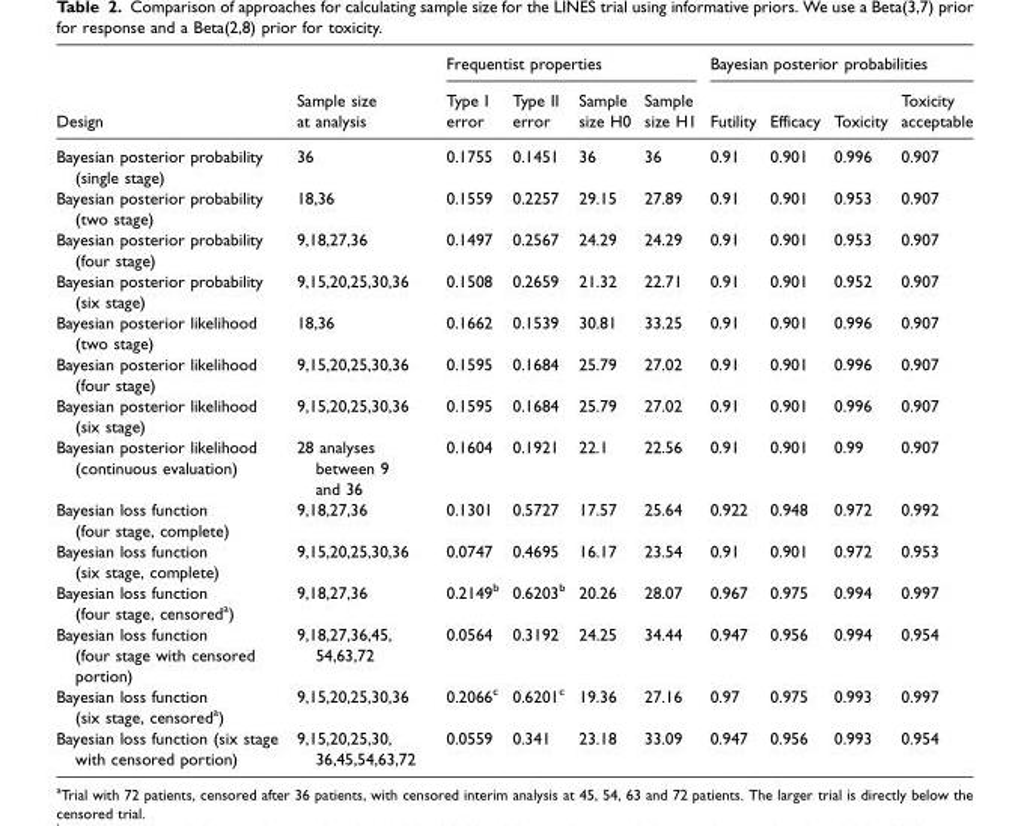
<table><thead><tr><td rowspan="2">Design</td><td rowspan="2">Sample size at analysis</td><td colspan="4">Frequentist properties</td><td colspan="4">Bayesian posterior probabilities</td></tr><tr><td>Type I error</td><td>Type II error</td><td>Sample size H0</td><td>Sample size H1</td><td>Futility</td><td>Efficacy</td><td>Toxicity</td><td>Toxicity acceptable</td></tr></thead><tbody><tr><td>Bayesian posterior probability (single stage)</td><td>36</td><td>0.1755</td><td>0.1451</td><td>36</td><td>36</td><td>0.91</td><td>0.901</td><td>0.996</td><td>0.907</td></tr><tr><td>Bayesian posterior probability (two stage)</td><td>18,36</td><td>0.1559</td><td>0.2257</td><td>29.15</td><td>27.89</td><td>0.91</td><td>0.901</td><td>0.953</td><td>0.907</td></tr><tr><td>Bayesian posterior probability (four stage)</td><td>9,18,27,36</td><td>0.1497</td><td>0.2567</td><td>24.29</td><td>24.29</td><td>0.91</td><td>0.901</td><td>0.953</td><td>0.907</td></tr><tr><td>Bayesian posterior probability (six stage)</td><td>9,15,20,25,30,36</td><td>0.1508</td><td>0.2659</td><td>21.32</td><td>22.71</td><td>0.91</td><td>0.901</td><td>0.952</td><td>0.907</td></tr><tr><td>Bayesian posterior likelihood (two stage)</td><td>18,36</td><td>0.1662</td><td>0.1539</td><td>30.81</td><td>33.25</td><td>0.91</td><td>0.901</td><td>0.996</td><td>0.907</td></tr><tr><td>Bayesian posterior likelihood (four stage)</td><td>9,15,20,25,30,36</td><td>0.1595</td><td>0.1684</td><td>25.79</td><td>27.02</td><td>0.91</td><td>0.901</td><td>0.996</td><td>0.907</td></tr><tr><td>Bayesian posterior likelihood (six stage)</td><td>9,15,20,25,30,36</td><td>0.1595</td><td>0.1684</td><td>25.79</td><td>27.02</td><td>0.91</td><td>0.901</td><td>0.996</td><td>0.907</td></tr><tr><td>Bayesian posterior likelihood (continuous evaluation)</td><td>28 analyses between 9 and 36</td><td>0.1604</td><td>0.1921</td><td>22.1</td><td>22.56</td><td>0.91</td><td>0.901</td><td>0.99</td><td>0.907</td></tr><tr><td>Bayesian loss function (four stage, complete)</td><td>9,18,27,36</td><td>0.1301</td><td>0.5727</td><td>17.57</td><td>25.64</td><td>0.922</td><td>0.948</td><td>0.972</td><td>0.992</td></tr><tr><td>Bayesian loss function (six stage, complete)</td><td>9,15,20,25,30,36</td><td>0.0747</td><td>0.4695</td><td>16.17</td><td>23.54</td><td>0.91</td><td>0.901</td><td>0.972</td><td>0.953</td></tr><tr><td>Bayesian loss function (four stage, censored<sup>a</sup>)</td><td>9,18,27,36</td><td>0.2149<sup>b</sup></td><td>0.6203<sup>b</sup></td><td>20.26</td><td>28.07</td><td>0.967</td><td>0.975</td><td>0.994</td><td>0.997</td></tr><tr><td>Bayesian loss function (four stage with censored portion)</td><td>9,18,27,36,45, 54,63,72</td><td>0.0564</td><td>0.3192</td><td>24.25</td><td>34.44</td><td>0.947</td><td>0.956</td><td>0.994</td><td>0.954</td></tr><tr><td>Bayesian loss function (six stage, censored<sup>a</sup>)</td><td>9,15,20,25,30,36</td><td>0.2066<sup>c</sup></td><td>0.6201<sup>c</sup></td><td>19.36</td><td>27.16</td><td>0.97</td><td>0.975</td><td>0.993</td><td>0.997</td></tr><tr><td>Bayesian loss function (six stage with censored portion)</td><td>9,15,20,25,30, 36,45,54,63,72</td><td>0.0559</td><td>0.341</td><td>23.18</td><td>33.09</td><td>0.947</td><td>0.956</td><td>0.993</td><td>0.954</td></tr></tbody></table>